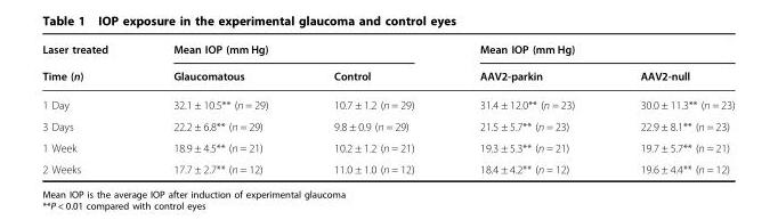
<table><thead><tr><td rowspan="2">Laser treated Time (n)</td><td colspan="2">Mean IOP (mm Hg)</td><td colspan="2">Mean IOP (mm Hg)</td></tr><tr><td>Glaucomatous</td><td>Control</td><td>AAV2-parkin</td><td>AAV2-null</td></tr></thead><tbody><tr><td>1 Day</td><td>32.1 ± 10.5** (n = 29)</td><td>10.7 ± 1.2 (n = 29)</td><td>31.4 ± 12.0** (n = 23)</td><td>30.0 ± 11.3** (n = 23)</td></tr><tr><td>3 Days</td><td>22.2 ± 6.8** (n = 29)</td><td>9.8 ± 0.9 (n = 29)</td><td>21.5 ± 5.7** (n = 23)</td><td>22.9 ± 8.1** (n = 23)</td></tr><tr><td>1 Week</td><td>18.9 ± 4.5** (n = 21)</td><td>10.2 ± 1.2 (n = 21)</td><td>19.3 ± 5.3** (n = 21)</td><td>19.7 ± 5.7** (n = 21)</td></tr><tr><td>2 Weeks</td><td>17.7 ± 2.7** (n = 12)</td><td>11.0 ± 1.0 (n = 12)</td><td>18.4 ± 4.2** (n = 12)</td><td>19.6 ± 4.4** (n = 12)</td></tr></tbody></table>